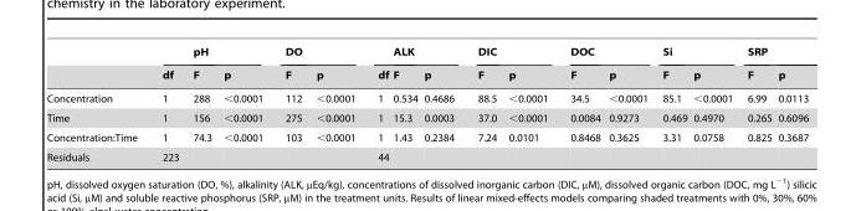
<table><thead><tr><td rowspan="2"></td><td rowspan="2">df</td><td rowspan="2">pH F</td><td rowspan="2">p</td><td rowspan="2">DO F</td><td rowspan="2">p</td><td rowspan="2">df</td><td rowspan="2">ALK F</td><td rowspan="2">p</td><td rowspan="2">DIC F</td><td rowspan="2">p</td><td rowspan="2">DOC F</td><td rowspan="2">p</td><td rowspan="2">Si F</td><td rowspan="2">p</td><td rowspan="2">SRP F</td><td rowspan="2">p</td></tr><tr></tr></thead><tbody><tr><td>Concentration</td><td>1</td><td>288</td><td>&lt;0.0001</td><td>112</td><td>&lt;0.0001</td><td>1</td><td>0.534</td><td>0.4686</td><td>88.5</td><td>&lt;0.0001</td><td>34.5</td><td>&lt;0.0001</td><td>85.1</td><td>&lt;0.0001</td><td>6.99</td><td>0.0113</td></tr><tr><td>Time</td><td>1</td><td>156</td><td>&lt;0.0001</td><td>275</td><td>&lt;0.0001</td><td>1</td><td>15.3</td><td>0.0003</td><td>37.0</td><td>&lt;0.0001</td><td>0.0084</td><td>0.9273</td><td>0.469</td><td>0.4970</td><td>0.265</td><td>0.6096</td></tr><tr><td>Concentration:Time</td><td>1</td><td>74.3</td><td>&lt;0.0001</td><td>103</td><td>&lt;0.0001</td><td>1</td><td>1.43</td><td>0.2384</td><td>7.24</td><td>0.0101</td><td>0.8468</td><td>0.3625</td><td>3.31</td><td>0.0758</td><td>0.825</td><td>0.3687</td></tr><tr><td>Residuals</td><td>223</td><td></td><td></td><td></td><td></td><td>44</td><td></td><td></td><td></td><td></td><td></td><td></td><td></td><td></td><td></td><td></td></tr></tbody></table>